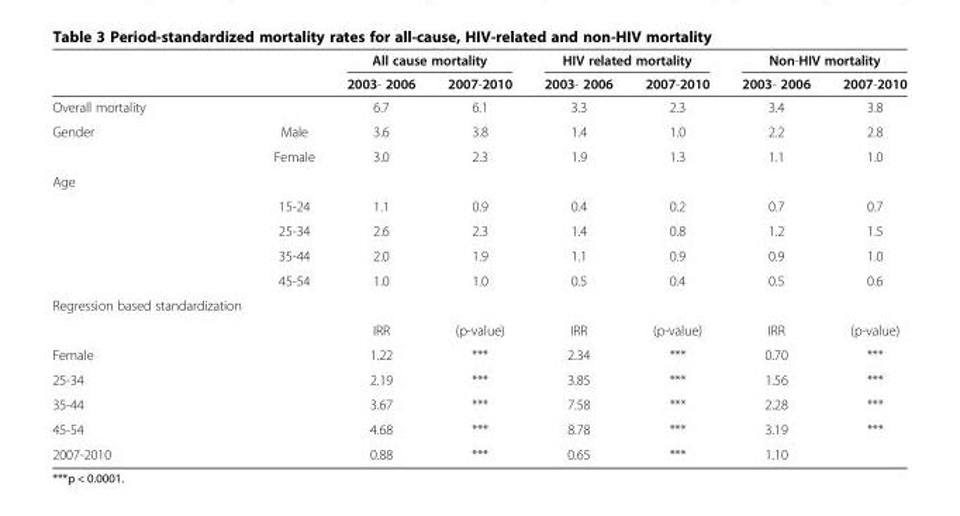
<table><thead><tr><td rowspan="2"></td><td rowspan="2"></td><td colspan="2">All cause mortality</td><td colspan="2">HIV related mortality</td><td colspan="2">Non-HIV mortality</td></tr><tr><td>2003- 2006</td><td>2007-2010</td><td>2003- 2006</td><td>2007-2010</td><td>2003- 2006</td><td>2007-2010</td></tr></thead><tbody><tr><td>Overall mortality</td><td></td><td>6.7</td><td>6.1</td><td>3.3</td><td>2.3</td><td>3.4</td><td>3.8</td></tr><tr><td rowspan="2">Gender</td><td>Male</td><td>3.6</td><td>3.8</td><td>1.4</td><td>1.0</td><td>2.2</td><td>2.8</td></tr><tr><td>Female</td><td>3.0</td><td>2.3</td><td>1.9</td><td>1.3</td><td>1.1</td><td>1.0</td></tr><tr><td colspan="8">Age</td></tr><tr><td></td><td>15-24</td><td>1.1</td><td>0.9</td><td>0.4</td><td>0.2</td><td>0.7</td><td>0.7</td></tr><tr><td></td><td>25-34</td><td>2.6</td><td>2.3</td><td>1.4</td><td>0.8</td><td>1.2</td><td>1.5</td></tr><tr><td></td><td>35-44</td><td>2.0</td><td>1.9</td><td>1.1</td><td>0.9</td><td>0.9</td><td>1.0</td></tr><tr><td></td><td>45-54</td><td>1.0</td><td>1.0</td><td>0.5</td><td>0.4</td><td>0.5</td><td>0.6</td></tr><tr><td colspan="8">Regression based standardization</td></tr><tr><td></td><td></td><td>IRR</td><td>(p-value)</td><td>IRR</td><td>(p-value)</td><td>IRR</td><td>(p-value)</td></tr><tr><td>Female</td><td></td><td>1.22</td><td>***</td><td>2.34</td><td>***</td><td>0.70</td><td>***</td></tr><tr><td>25-34</td><td></td><td>2.19</td><td>***</td><td>3.85</td><td>***</td><td>1.56</td><td>***</td></tr><tr><td>35-44</td><td></td><td>3.67</td><td>***</td><td>7.58</td><td>***</td><td>2.28</td><td>***</td></tr><tr><td>45-54</td><td></td><td>4.68</td><td>***</td><td>8.78</td><td>***</td><td>3.19</td><td>***</td></tr><tr><td>2007-2010</td><td></td><td>0.88</td><td>***</td><td>0.65</td><td>***</td><td>1.10</td><td></td></tr></tbody></table>